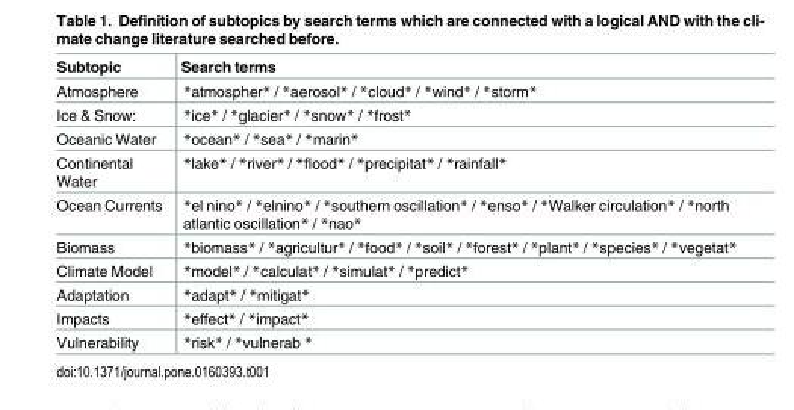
<table><thead><tr><td>Subtopic</td><td>Search terms</td></tr></thead><tbody><tr><td>Atmosphere</td><td>*atmospher* / *aerosol* / *cloud* / *wind* / *storm*</td></tr><tr><td>Ice &amp; Snow:</td><td>*ice* / *glacier* / *snow* / *frost*</td></tr><tr><td>Oceanic Water</td><td>*ocean* / *sea* / *marin*</td></tr><tr><td>Continental Water</td><td>*lake* / *river* / *flood* / *precipitat* / *rainfall*</td></tr><tr><td>Ocean Currents</td><td>*el nino* / *elnino* / *southern oscillation* / *enso* / *Walker circulation* / *north atlantic oscillation* / *nao*</td></tr><tr><td>Biomass</td><td>*biomass* / *agricultur* / *food* / *soil* / *forest* / *plant* / *species* / *vegetat*</td></tr><tr><td>Climate Model</td><td>*model* / *calculat* / *simulat* / *predict*</td></tr><tr><td>Adaptation</td><td>*adapt* / *mitigat*</td></tr><tr><td>Impacts</td><td>*effect* / *impact*</td></tr><tr><td>Vulnerability</td><td>*risk* / *vulnerab *</td></tr></tbody></table>